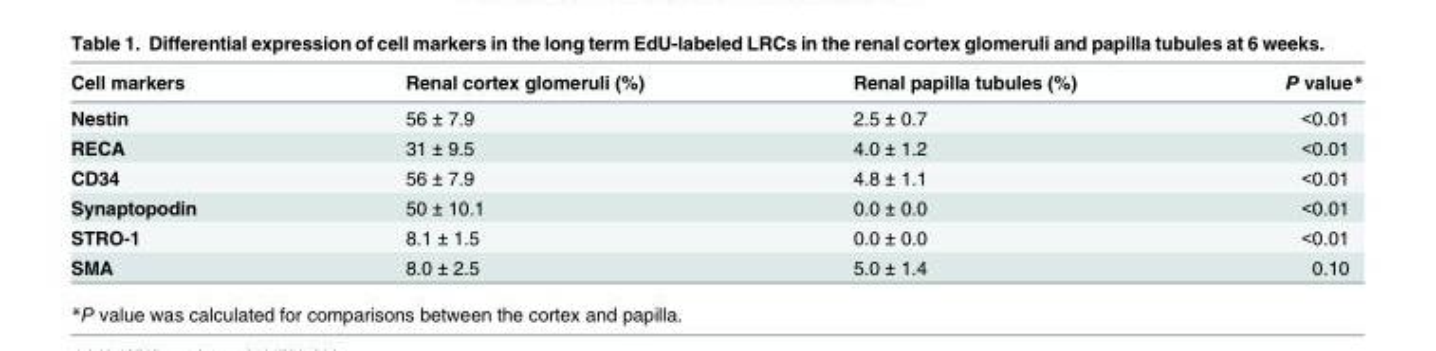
<table><thead><tr><td>Cell markers</td><td>Renal cortex glomeruli (%)</td><td>Renal papilla tubules (%)</td><td>P value*</td></tr></thead><tbody><tr><td>Nestin</td><td>56 ± 7.9</td><td>2.5 ± 0.7</td><td>&lt;0.01</td></tr><tr><td>RECA</td><td>31 ± 9.5</td><td>4.0 ± 1.2</td><td>&lt;0.01</td></tr><tr><td>CD34</td><td>56 ± 7.9</td><td>4.8 ± 1.1</td><td>&lt;0.01</td></tr><tr><td>Synaptopodin</td><td>50 ± 10.1</td><td>0.0 ± 0.0</td><td>&lt;0.01</td></tr><tr><td>STRO-1</td><td>8.1 ± 1.5</td><td>0.0 ± 0.0</td><td>&lt;0.01</td></tr><tr><td>SMA</td><td>8.0 ± 2.5</td><td>5.0 ± 1.4</td><td>0.10</td></tr></tbody></table>